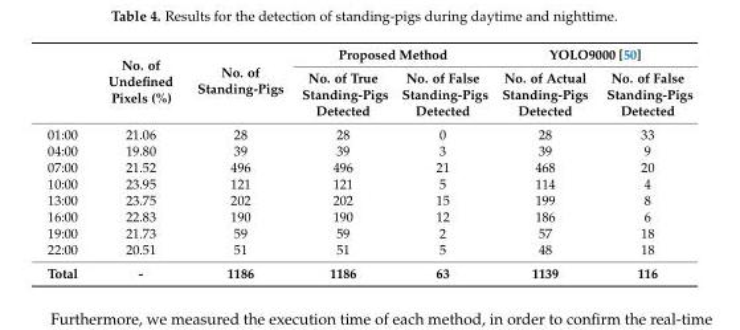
<table><thead><tr><td rowspan="2"></td><td rowspan="2">No. of Undefined Pixels (%)</td><td rowspan="2">No. of Standing-Pigs</td><td colspan="2">Proposed Method</td><td colspan="2">YOLO9000 [50]</td></tr><tr><td>No. of True Standing-Pigs Detected</td><td>No. of False Standing-Pigs Detected</td><td>No. of Actual Standing-Pigs Detected</td><td>No. of False Standing-Pigs Detected</td></tr></thead><tbody><tr><td>01:00</td><td>21.06</td><td>28</td><td>28</td><td>0</td><td>28</td><td>33</td></tr><tr><td>04:00</td><td>19.80</td><td>39</td><td>39</td><td>3</td><td>39</td><td>9</td></tr><tr><td>07:00</td><td>21.52</td><td>496</td><td>496</td><td>21</td><td>468</td><td>20</td></tr><tr><td>10:00</td><td>23.95</td><td>121</td><td>121</td><td>5</td><td>114</td><td>4</td></tr><tr><td>13:00</td><td>23.75</td><td>202</td><td>202</td><td>15</td><td>199</td><td>8</td></tr><tr><td>16:00</td><td>22.83</td><td>190</td><td>190</td><td>12</td><td>186</td><td>6</td></tr><tr><td>19:00</td><td>21.73</td><td>59</td><td>59</td><td>2</td><td>57</td><td>18</td></tr><tr><td>22:00</td><td>20.51</td><td>51</td><td>51</td><td>5</td><td>48</td><td>18</td></tr><tr><td>Total</td><td>-</td><td>1186</td><td>1186</td><td>63</td><td>1139</td><td>116</td></tr></tbody></table>